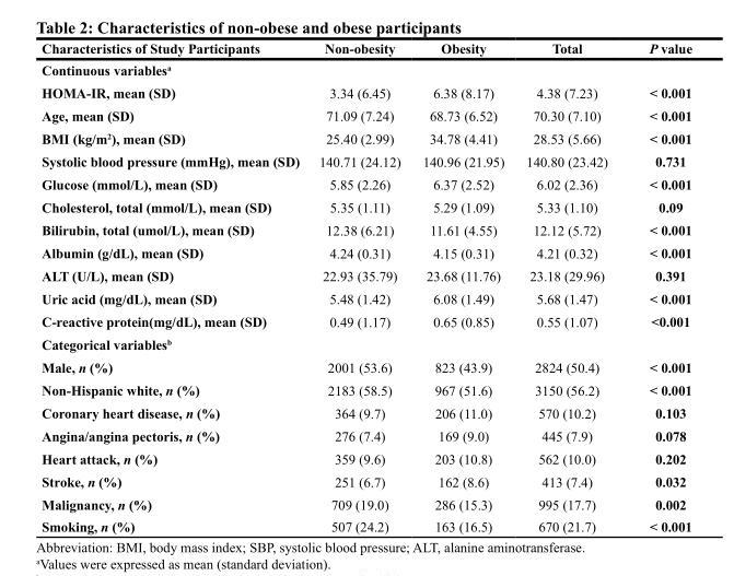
<table><thead><tr><td>Characteristics of Study Participants</td><td>Non-obesity</td><td>Obesity</td><td>Total</td><td>P value</td></tr></thead><tbody><tr><td colspan="5">Continuous variables<sup>a</sup></td></tr><tr><td>HOMA-IR, mean (SD)</td><td>3.34 (6.45)</td><td>6.38 (8.17)</td><td>4.38 (7.23)</td><td>&lt; 0.001</td></tr><tr><td>Age, mean (SD)</td><td>71.09 (7.24)</td><td>68.73 (6.52)</td><td>70.30 (7.10)</td><td>&lt; 0.001</td></tr><tr><td>BMI (kg/m<sup>2</sup>), mean (SD)</td><td>25.40 (2.99)</td><td>34.78 (4.41)</td><td>28.53 (5.66)</td><td>&lt; 0.001</td></tr><tr><td>Systolic blood pressure (mmHg), mean (SD)</td><td>140.71 (24.12)</td><td>140.96 (21.95)</td><td>140.80 (23.42)</td><td>0.731</td></tr><tr><td>Glucose (mmol/L), mean (SD)</td><td>5.85 (2.26)</td><td>6.37 (2.52)</td><td>6.02 (2.36)</td><td>&lt; 0.001</td></tr><tr><td>Cholesterol, total (mmol/L), mean (SD)</td><td>5.35 (1.11)</td><td>5.29 (1.09)</td><td>5.33 (1.10)</td><td>0.09</td></tr><tr><td>Bilirubin, total (umol/L), mean (SD)</td><td>12.38 (6.21)</td><td>11.61 (4.55)</td><td>12.12 (5.72)</td><td>&lt; 0.001</td></tr><tr><td>Albumin (g/dL), mean (SD)</td><td>4.24 (0.31)</td><td>4.15 (0.31)</td><td>4.21 (0.32)</td><td>&lt; 0.001</td></tr><tr><td>ALT (U/L), mean (SD)</td><td>22.93 (35.79)</td><td>23.68 (11.76)</td><td>23.18 (29.96)</td><td>0.391</td></tr><tr><td>Uric acid (mg/dL), mean (SD)</td><td>5.48 (1.42)</td><td>6.08 (1.49)</td><td>5.68 (1.47)</td><td>&lt; 0.001</td></tr><tr><td>C-reactive protein(mg/dL), mean (SD)</td><td>0.49 (1.17)</td><td>0.65 (0.85)</td><td>0.55 (1.07)</td><td>&lt;0.001</td></tr><tr><td colspan="5">Categorical variables<sup>b</sup></td></tr><tr><td>Male, n (%)</td><td>2001 (53.6)</td><td>823 (43.9)</td><td>2824 (50.4)</td><td>&lt; 0.001</td></tr><tr><td>Non-Hispanic white, n (%)</td><td>2183 (58.5)</td><td>967 (51.6)</td><td>3150 (56.2)</td><td>&lt; 0.001</td></tr><tr><td>Coronary heart disease, n (%)</td><td>364 (9.7)</td><td>206 (11.0)</td><td>570 (10.2)</td><td>0.103</td></tr><tr><td>Angina/angina pectoris, n (%)</td><td>276 (7.4)</td><td>169 (9.0)</td><td>445 (7.9)</td><td>0.078</td></tr><tr><td>Heart attack, n (%)</td><td>359 (9.6)</td><td>203 (10.8)</td><td>562 (10.0)</td><td>0.202</td></tr><tr><td>Stroke, n (%)</td><td>251 (6.7)</td><td>162 (8.6)</td><td>413 (7.4)</td><td>0.032</td></tr><tr><td>Malignancy, n (%)</td><td>709 (19.0)</td><td>286 (15.3)</td><td>995 (17.7)</td><td>0.002</td></tr><tr><td>Smoking, n (%)</td><td>507 (24.2)</td><td>163 (16.5)</td><td>670 (21.7)</td><td>&lt; 0.001</td></tr></tbody></table>